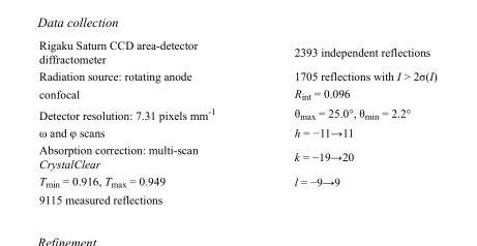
<table><tbody><tr><td>Rigaku Saturn CCD area-detector diffractometer</td><td>2393 independent reflections</td></tr><tr><td>Radiation source: rotating anode</td><td>1705 reflections with I &gt; 2σ(I)</td></tr><tr><td>confocal</td><td>R<sub>int</sub> = 0.096</td></tr><tr><td>Detector resolution: 7.31 pixels mm<sup>-1</sup></td><td>θ<sub>max</sub> = 25.0°, θ<sub>min</sub> = 2.2°</td></tr><tr><td>ω and φ scans</td><td>h = −11→11</td></tr><tr><td>Absorption correction: multi-scan CrystalClear</td><td>k = −19→20</td></tr><tr><td>T<sub>min</sub> = 0.916, T<sub>max</sub> = 0.949</td><td>l = −9→9</td></tr><tr><td>9115 measured reflections</td><td></td></tr></tbody></table>